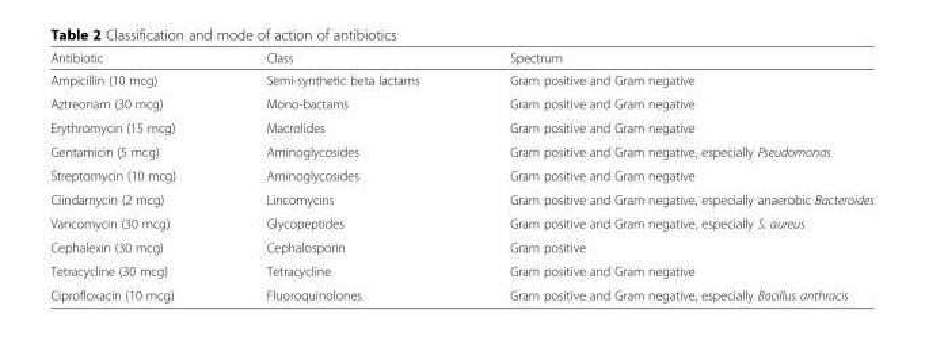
<table><thead><tr><td>Antibiotic</td><td>Class</td><td>Spectrum</td></tr></thead><tbody><tr><td>Ampicillin (10 mcg)</td><td>Semi-synthetic beta lactams</td><td>Gram positive and Gram negative</td></tr><tr><td>Aztreonam (30 mcg)</td><td>Mono-bactams</td><td>Gram positive and Gram negative</td></tr><tr><td>Erythromycin (15 mcg)</td><td>Macrolides</td><td>Gram positive and Gram negative</td></tr><tr><td>Gentamicin (5 mcg)</td><td>Aminoglycosides</td><td>Gram positive and Gram negative, especially Pseudomonas</td></tr><tr><td>Streptomycin (10 mcg)</td><td>Aminoglycosides</td><td>Gram positive and Gram negative</td></tr><tr><td>Clindamycin (2 mcg)</td><td>Lincomycins</td><td>Gram positive and Gram negative, especially anaerobic Bacteroides</td></tr><tr><td>Vancomycin (30 mcg)</td><td>Glycopeptides</td><td>Gram positive and Gram negative, especially S. aureus</td></tr><tr><td>Cephalexin (30 mcg)</td><td>Cephalosporin</td><td>Gram positive</td></tr><tr><td>Tetracycline (30 mcg)</td><td>Tetracycline</td><td>Gram positive and Gram negative</td></tr><tr><td>Ciprofloxacin (10 mcg)</td><td>Fluoroquinolones</td><td>Gram positive and Gram negative, especially Bacillus anthracis</td></tr></tbody></table>